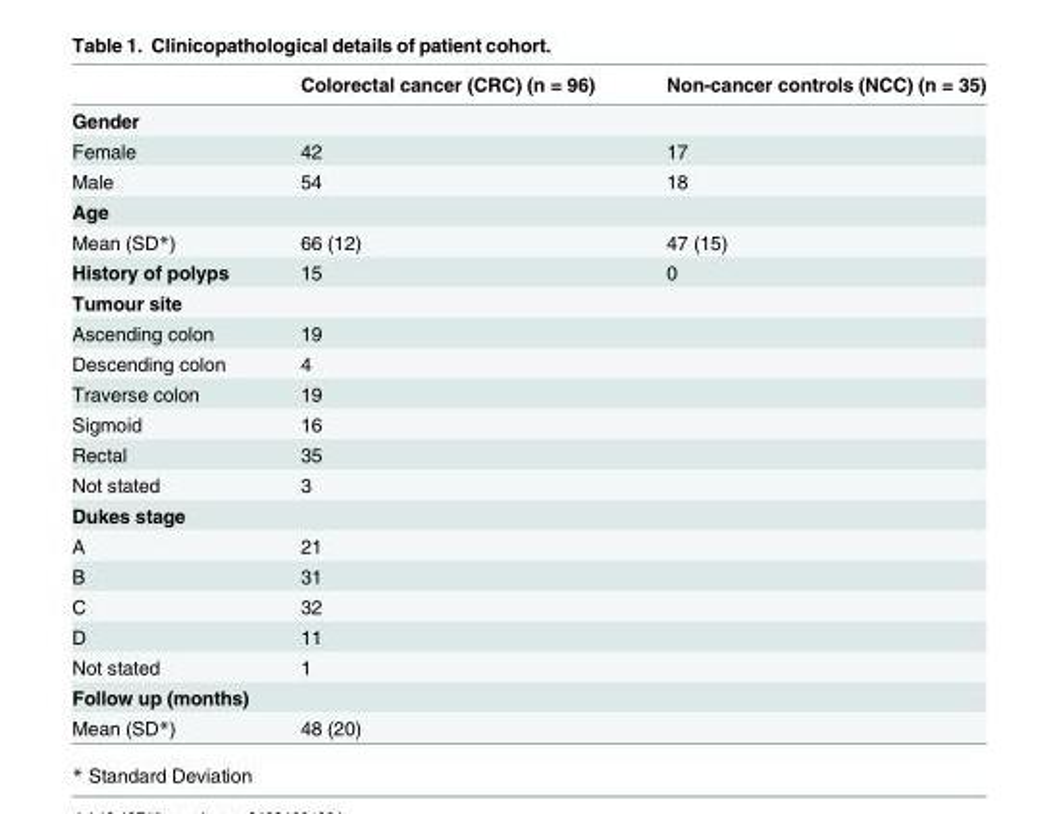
<table><thead><tr><td></td><td>Colorectal cancer (CRC) (n = 96)</td><td>Non-cancer controls (NCC) (n = 35)</td></tr></thead><tbody><tr><td colspan="3">Gender</td></tr><tr><td>Female</td><td>42</td><td>17</td></tr><tr><td>Male</td><td>54</td><td>18</td></tr><tr><td colspan="3">Age</td></tr><tr><td>Mean (SD*)</td><td>66 (12)</td><td>47 (15)</td></tr><tr><td>History of polyps</td><td>15</td><td>0</td></tr><tr><td colspan="3">Tumour site</td></tr><tr><td>Ascending colon</td><td>19</td><td></td></tr><tr><td>Descending colon</td><td>4</td><td></td></tr><tr><td>Traverse colon</td><td>19</td><td></td></tr><tr><td>Sigmoid</td><td>16</td><td></td></tr><tr><td>Rectal</td><td>35</td><td></td></tr><tr><td>Not stated</td><td>3</td><td></td></tr><tr><td colspan="3">Dukes stage</td></tr><tr><td>A</td><td>21</td><td></td></tr><tr><td>B</td><td>31</td><td></td></tr><tr><td>C</td><td>32</td><td></td></tr><tr><td>D</td><td>11</td><td></td></tr><tr><td>Not stated</td><td>1</td><td></td></tr><tr><td colspan="3">Follow up (months)</td></tr><tr><td>Mean (SD*)</td><td>48 (20)</td><td></td></tr></tbody></table>